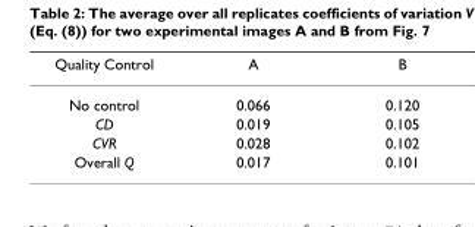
<table><thead><tr><td>Quality Control</td><td>A</td><td>B</td></tr></thead><tbody><tr><td>No control</td><td>0.066</td><td>0.120</td></tr><tr><td>CD</td><td>0.019</td><td>0.105</td></tr><tr><td>CVR</td><td>0.028</td><td>0.102</td></tr><tr><td>Overall Q</td><td>0.017</td><td>0.101</td></tr></tbody></table>